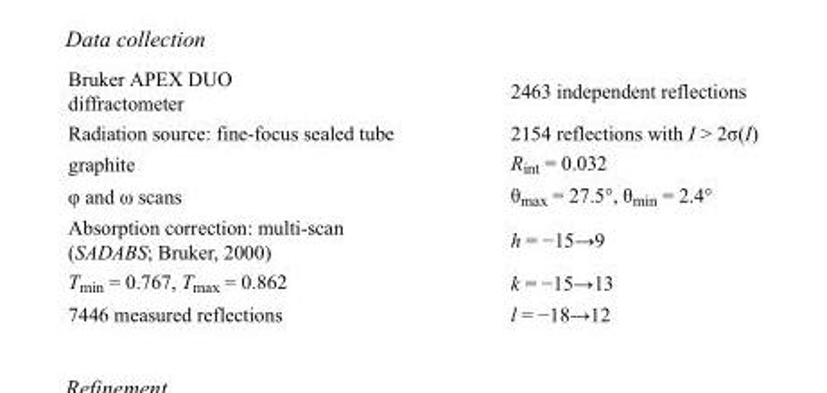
<table><tbody><tr><td>Bruker APEX DUO diffractometer</td><td>2463 independent reflections</td></tr><tr><td>Radiation source: fine-focus sealed tube</td><td>2154 reflections with I &gt; 2σ(I)</td></tr><tr><td>graphite</td><td>R<sub>int</sub> = 0.032</td></tr><tr><td>φ and ω scans</td><td>θ<sub>max</sub> = 27.5°, θ<sub>min</sub> = 2.4°</td></tr><tr><td>Absorption correction: multi-scan (SADABS; Bruker, 2000)</td><td>h = −15→9</td></tr><tr><td>T<sub>min</sub> = 0.767, T<sub>max</sub> = 0.862</td><td>k = −15→13</td></tr><tr><td>7446 measured reflections</td><td>l = −18→12</td></tr></tbody></table>